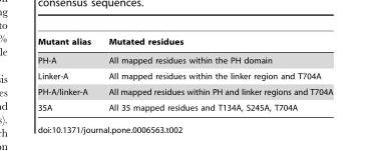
<table><thead><tr><td>Mutant alias</td><td>Mutated residues</td></tr></thead><tbody><tr><td>PH-A</td><td>All mapped residues within the PH domain</td></tr><tr><td>Linker-A</td><td>All mapped residues within the linker region and T704A</td></tr><tr><td>PH-A/linker-A</td><td>All mapped residues within PH and linker regions and T704A</td></tr><tr><td>35A</td><td>All 35 mapped residues and T134A, S245A, T704A</td></tr></tbody></table>